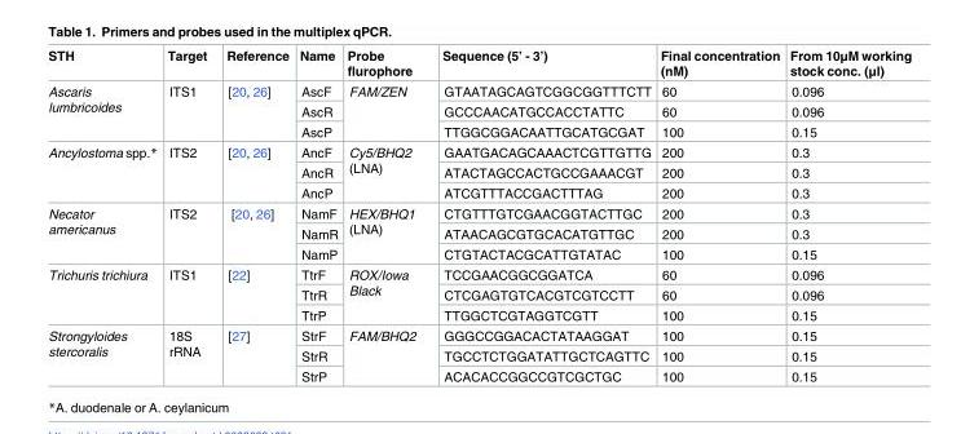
<table><thead><tr><td>STH</td><td>Target</td><td>Reference</td><td>Name</td><td>Probe flurophore</td><td>Sequence (5’ - 3’)</td><td>Final concentration (nM)</td><td>From 10μM working stock conc. (μl)</td></tr></thead><tbody><tr><td rowspan="3">Ascaris lumbricoides</td><td rowspan="3">ITS1</td><td rowspan="3">[20, 26]</td><td>AscF</td><td rowspan="3">FAM/ZEN</td><td>GTAATAGCAGTCGGCGGTTTCTT</td><td>60</td><td>0.096</td></tr><tr><td>AscR</td><td>GCCCAACATGCCACCTATTC</td><td>60</td><td>0.096</td></tr><tr><td>AscP</td><td>TTGGCGGACAATTGCATGCGAT</td><td>100</td><td>0.15</td></tr><tr><td rowspan="3">Ancylostoma spp.*</td><td rowspan="3">ITS2</td><td rowspan="3">[20, 26]</td><td>AncF</td><td rowspan="3">Cy5/BHQ2 (LNA)</td><td>GAATGACAGCAAACTCGTTGTTG</td><td>200</td><td>0.3</td></tr><tr><td>AncR</td><td>ATACTAGCCACTGCCGAAACGT</td><td>200</td><td>0.3</td></tr><tr><td>AncP</td><td>ATCGTTTACCGACTTTAG</td><td>200</td><td>0.3</td></tr><tr><td rowspan="3">Necator americanus</td><td rowspan="3">ITS2</td><td rowspan="3">[20, 26]</td><td>NamF</td><td rowspan="3">HEX/BHQ1 (LNA)</td><td>CTGTTTGTCGAACGGTACTTGC</td><td>200</td><td>0.3</td></tr><tr><td>NamR</td><td>ATAACAGCGTGCACATGTTGC</td><td>200</td><td>0.3</td></tr><tr><td>NamP</td><td>CTGTACTACGCATTGTATAC</td><td>100</td><td>0.15</td></tr><tr><td rowspan="3">Trichuris trichiura</td><td rowspan="3">ITS1</td><td rowspan="3">[22]</td><td>TtrF</td><td rowspan="3">ROX/Iowa Black</td><td>TCCGAACGGCGGATCA</td><td>60</td><td>0.096</td></tr><tr><td>TtrR</td><td>CTCGAGTGTCACGTCGTCCTT</td><td>60</td><td>0.096</td></tr><tr><td>TtrP</td><td>TTGGCTCGTAGGTCGTT</td><td>100</td><td>0.15</td></tr><tr><td rowspan="3">Strongyloides stercoralis</td><td rowspan="3">18S rRNA</td><td rowspan="3">[27]</td><td>StrF</td><td rowspan="3">FAM/BHQ2</td><td>GGGCCGGACACTATAAGGAT</td><td>100</td><td>0.15</td></tr><tr><td>StrR</td><td>TGCCTCTGGATATTGCTCAGTTC</td><td>100</td><td>0.15</td></tr><tr><td>StrP</td><td>ACACACCGGCCGTCGCTGC</td><td>100</td><td>0.15</td></tr></tbody></table>